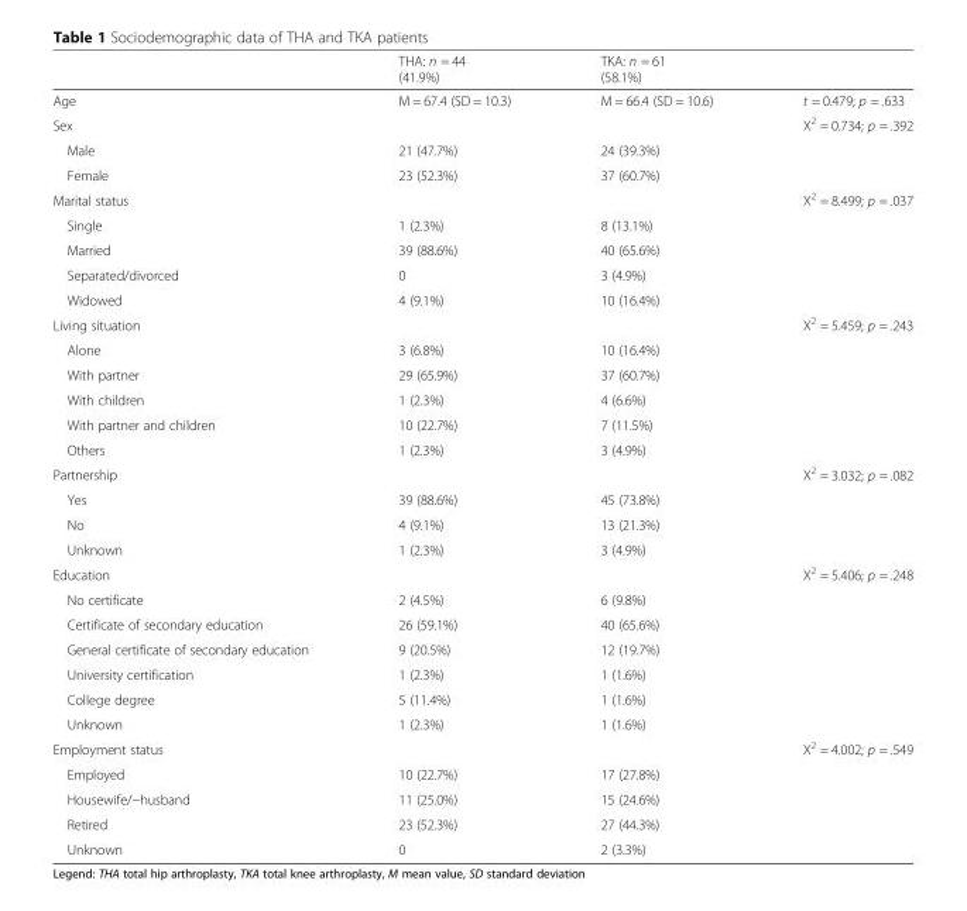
<table><thead><tr><td></td><td>THA: n = 44 (41.9%)</td><td>TKA: n = 61 (58.1%)</td><td></td></tr></thead><tbody><tr><td>Age</td><td>M = 67.4 (SD = 10.3)</td><td>M = 66.4 (SD = 10.6)</td><td>t = 0.479; p = .633</td></tr><tr><td>Sex</td><td></td><td></td><td>Χ<sup>2</sup> = 0.734; p = .392</td></tr><tr><td>Male</td><td>21 (47.7%)</td><td>24 (39.3%)</td><td></td></tr><tr><td>Female</td><td>23 (52.3%)</td><td>37 (60.7%)</td><td></td></tr><tr><td>Marital status</td><td></td><td></td><td>Χ<sup>2</sup> = 8.499; p = .037</td></tr><tr><td>Single</td><td>1 (2.3%)</td><td>8 (13.1%)</td><td></td></tr><tr><td>Married</td><td>39 (88.6%)</td><td>40 (65.6%)</td><td></td></tr><tr><td>Separated/divorced</td><td>0</td><td>3 (4.9%)</td><td></td></tr><tr><td>Widowed</td><td>4 (9.1%)</td><td>10 (16.4%)</td><td></td></tr><tr><td>Living situation</td><td></td><td></td><td>Χ<sup>2</sup> = 5.459; p = .243</td></tr><tr><td>Alone</td><td>3 (6.8%)</td><td>10 (16.4%)</td><td></td></tr><tr><td>With partner</td><td>29 (65.9%)</td><td>37 (60.7%)</td><td></td></tr><tr><td>With children</td><td>1 (2.3%)</td><td>4 (6.6%)</td><td></td></tr><tr><td>With partner and children</td><td>10 (22.7%)</td><td>7 (11.5%)</td><td></td></tr><tr><td>Others</td><td>1 (2.3%)</td><td>3 (4.9%)</td><td></td></tr><tr><td>Partnership</td><td></td><td></td><td>Χ<sup>2</sup> = 3.032; p = .082</td></tr><tr><td>Yes</td><td>39 (88.6%)</td><td>45 (73.8%)</td><td></td></tr><tr><td>No</td><td>4 (9.1%)</td><td>13 (21.3%)</td><td></td></tr><tr><td>Unknown</td><td>1 (2.3%)</td><td>3 (4.9%)</td><td></td></tr><tr><td>Education</td><td></td><td></td><td>Χ<sup>2</sup> = 5.406; p = .248</td></tr><tr><td>No certificate</td><td>2 (4.5%)</td><td>6 (9.8%)</td><td></td></tr><tr><td>Certificate of secondary education</td><td>26 (59.1%)</td><td>40 (65.6%)</td><td></td></tr><tr><td>General certificate of secondary education</td><td>9 (20.5%)</td><td>12 (19.7%)</td><td></td></tr><tr><td>University certification</td><td>1 (2.3%)</td><td>1 (1.6%)</td><td></td></tr><tr><td>College degree</td><td>5 (11.4%)</td><td>1 (1.6%)</td><td></td></tr><tr><td>Unknown</td><td>1 (2.3%)</td><td>1 (1.6%)</td><td></td></tr><tr><td>Employment status</td><td></td><td></td><td>Χ<sup>2</sup> = 4.002; p = .549</td></tr><tr><td>Employed</td><td>10 (22.7%)</td><td>17 (27.8%)</td><td></td></tr><tr><td>Housewife/−husband</td><td>11 (25.0%)</td><td>15 (24.6%)</td><td></td></tr><tr><td>Retired</td><td>23 (52.3%)</td><td>27 (44.3%)</td><td></td></tr><tr><td>Unknown</td><td>0</td><td>2 (3.3%)</td><td></td></tr></tbody></table>